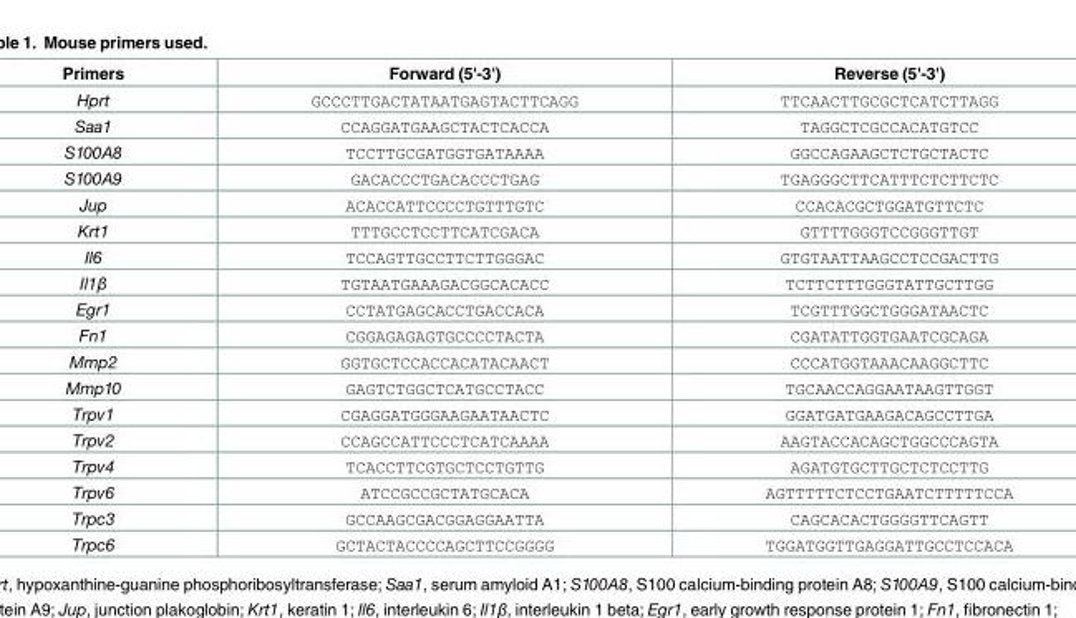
<table><thead><tr><td>Primers</td><td>Forward (5&#x27;-3&#x27;)</td><td>Reverse (5&#x27;-3&#x27;)</td></tr></thead><tbody><tr><td>Hprt</td><td>GCCCTTGACTATAATGAGTACTTCAGG</td><td>TTCAACTTGCGCTCATCTTAGG</td></tr><tr><td>Saa1</td><td>CCAGGATGAAGCTACTCACCA</td><td>TAGGCTCGCCACATGTCC</td></tr><tr><td>S100A8</td><td>TCCTTGCGATGGTGATAAAA</td><td>GGCCAGAAGCTCTGCTACTC</td></tr><tr><td>S100A9</td><td>GACACCCTGACACCCTGAG</td><td>TGAGGGCTTCATTTCTCTTCTC</td></tr><tr><td>Jup</td><td>ACACCATTCCCCTGTTTGTC</td><td>CCACACGCTGGATGTTCTC</td></tr><tr><td>Krt1</td><td>TTTGCCTCCTTCATCGACA</td><td>GTTTTGGGTCCGGGTTGT</td></tr><tr><td>Il6</td><td>TCCAGTTGCCTTCTTGGGAC</td><td>GTGTAATTAAGCCTCCGACTTG</td></tr><tr><td>Il1β</td><td>TGTAATGAAAGACGGCACACC</td><td>TCTTCTTTGGGTATTGCTTGG</td></tr><tr><td>Egr1</td><td>CCTATGAGCACCTGACCACA</td><td>TCGTTTGGCTGGGATAACTC</td></tr><tr><td>Fn1</td><td>CGGAGAGAGTGCCCCTACTA</td><td>CGATATTGGTGAATCGCAGA</td></tr><tr><td>Mmp2</td><td>GGTGCTCCACCACATACAACT</td><td>CCCATGGTAAACAAGGCTTC</td></tr><tr><td>Mmp10</td><td>GAGTCTGGCTCATGCCTACC</td><td>TGCAACCAGGAATAAGTTGGT</td></tr><tr><td>Trpv1</td><td>CGAGGATGGGAAGAATAACTC</td><td>GGATGATGAAGACAGCCTTGA</td></tr><tr><td>Trpv2</td><td>CCAGCCATTCCCTCATCAAAA</td><td>AAGTACCACAGCTGGCCCAGTA</td></tr><tr><td>Trpv4</td><td>TCACCTTCGTGCTCCTGTTG</td><td>AGATGTGCTTGCTCTCCTTG</td></tr><tr><td>Trpv6</td><td>ATCCGCCGCTATGCACA</td><td>AGTTTTTCTCCTGAATCTTTTTCCA</td></tr><tr><td>Trpc3</td><td>GCCAAGCGACGGAGGAATTA</td><td>CAGCACACTGGGGTTCAGTT</td></tr><tr><td>Trpc6</td><td>GCTACTACCCCAGCTTCCGGGG</td><td>TGGATGGTTGAGGATTGCCTCCACA</td></tr></tbody></table>